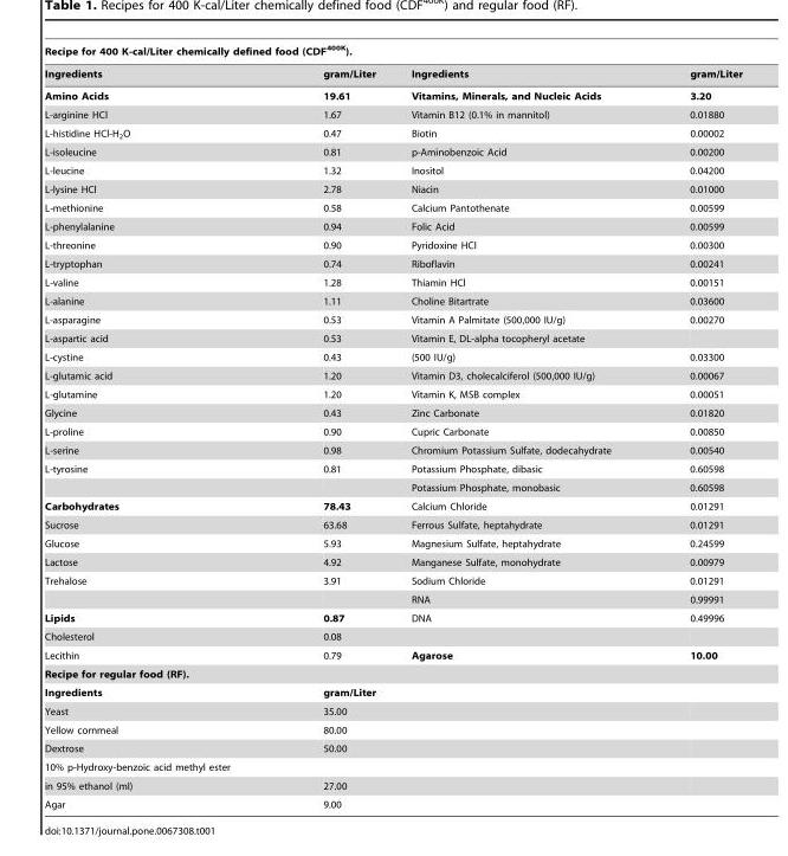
<table><thead><tr><td colspan="4">Recipe for 400 K-cal/Liter chemically defined food (CDF<sup>400K</sup>).</td></tr><tr><td>Ingredients</td><td>gram/Liter</td><td>Ingredients</td><td>gram/Liter</td></tr></thead><tbody><tr><td>Amino Acids</td><td>19.61</td><td>Vitamins, Minerals, and Nucleic Acids</td><td>3.20</td></tr><tr><td>L-arginine HCl</td><td>1.67</td><td>Vitamin B12 (0.1% in mannitol)</td><td>0.01880</td></tr><tr><td>L-histidine HCl-H<sub>2</sub>O</td><td>0.47</td><td>Biotin</td><td>0.00002</td></tr><tr><td>L-isoleucine</td><td>0.81</td><td>p-Aminobenzoic Acid</td><td>0.00200</td></tr><tr><td>L-leucine</td><td>1.32</td><td>Inositol</td><td>0.04200</td></tr><tr><td>L-lysine HCl</td><td>2.78</td><td>Niacin</td><td>0.01000</td></tr><tr><td>L-methionine</td><td>0.58</td><td>Calcium Pantothenate</td><td>0.00599</td></tr><tr><td>L-phenylalanine</td><td>0.94</td><td>Folic Acid</td><td>0.00599</td></tr><tr><td>L-threonine</td><td>0.90</td><td>Pyridoxine HCl</td><td>0.00300</td></tr><tr><td>L-tryptophan</td><td>0.74</td><td>Riboflavin</td><td>0.00241</td></tr><tr><td>L-valine</td><td>1.28</td><td>Thiamin HCl</td><td>0.00151</td></tr><tr><td>L-alanine</td><td>1.11</td><td>Choline Bitartrate</td><td>0.03600</td></tr><tr><td>L-asparagine</td><td>0.53</td><td>Vitamin A Palmitate (500,000 IU/g)</td><td>0.00270</td></tr><tr><td>L-aspartic acid</td><td>0.53</td><td>Vitamin E, DL-alpha tocopheryl acetate</td><td></td></tr><tr><td>L-cystine</td><td>0.43</td><td>(500 IU/g)</td><td>0.03300</td></tr><tr><td>L-glutamic acid</td><td>1.20</td><td>Vitamin D3, cholecalciferol (500,000 IU/g)</td><td>0.00067</td></tr><tr><td>L-glutamine</td><td>1.20</td><td>Vitamin K, MSB complex</td><td>0.00051</td></tr><tr><td>Glycine</td><td>0.43</td><td>Zinc Carbonate</td><td>0.01820</td></tr><tr><td>L-proline</td><td>0.90</td><td>Cupric Carbonate</td><td>0.00850</td></tr><tr><td>L-serine</td><td>0.98</td><td>Chromium Potassium Sulfate, dodecahydrate</td><td>0.00540</td></tr><tr><td rowspan="2">L-tyrosine</td><td>0.81</td><td>Potassium Phosphate, dibasic</td><td>0.60598</td></tr><tr><td></td><td>Potassium Phosphate, monobasic</td><td>0.60598</td></tr><tr><td>Carbohydrates</td><td>78.43</td><td>Calcium Chloride</td><td>0.01291</td></tr><tr><td>Sucrose</td><td>63.68</td><td>Ferrous Sulfate, heptahydrate</td><td>0.01291</td></tr><tr><td>Glucose</td><td>5.93</td><td>Magnesium Sulfate, heptahydrate</td><td>0.24599</td></tr><tr><td>Lactose</td><td>4.92</td><td>Manganese Sulfate, monohydrate</td><td>0.00979</td></tr><tr><td rowspan="2">Trehalose</td><td>3.91</td><td>Sodium Chloride</td><td>0.01291</td></tr><tr><td></td><td>RNA</td><td>0.99991</td></tr><tr><td>Lipids</td><td>0.87</td><td>DNA</td><td>0.49996</td></tr><tr><td>Cholesterol</td><td>0.08</td><td></td><td></td></tr><tr><td>Lecithin</td><td>0.79</td><td>Agarose</td><td>10.00</td></tr><tr><td colspan="4">Recipe for regular food (RF).</td></tr><tr><td>Ingredients</td><td>gram/Liter</td><td></td><td></td></tr><tr><td>Yeast</td><td>35.00</td><td></td><td></td></tr><tr><td>Yellow cornmeal</td><td>80.00</td><td></td><td></td></tr><tr><td>Dextrose</td><td>50.00</td><td></td><td></td></tr><tr><td colspan="4">10% p-Hydroxy-benzoic acid methyl ester</td></tr><tr><td>in 95% ethanol (ml)</td><td>27.00</td><td></td><td></td></tr><tr><td>Agar</td><td>9.00</td><td></td><td></td></tr></tbody></table>